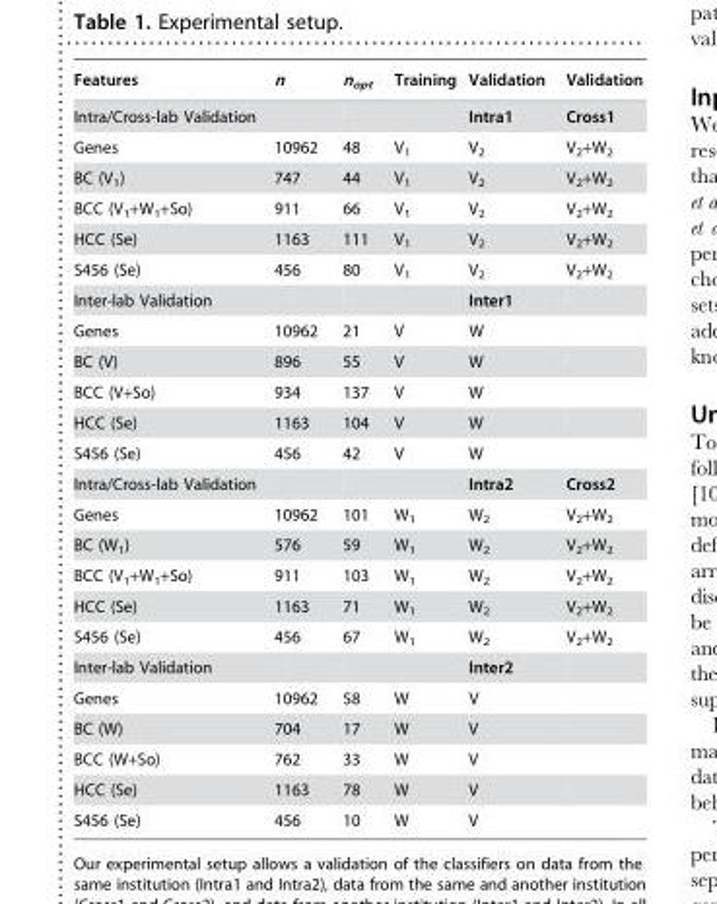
<table><thead><tr><td>Features</td><td>n</td><td>n<sub>opt</sub></td><td>Training</td><td>Validation</td><td>Validation</td></tr></thead><tbody><tr><td>Intra/Cross-lab Validation</td><td></td><td></td><td></td><td>Intra1</td><td>Cross1</td></tr><tr><td>Genes</td><td>10962</td><td>48</td><td>V<sub>1</sub></td><td>V<sub>2</sub></td><td>V<sub>2</sub>+W<sub>2</sub></td></tr><tr><td>BC (V<sub>1</sub>)</td><td>747</td><td>44</td><td>V<sub>1</sub></td><td>V<sub>2</sub></td><td>V<sub>2</sub>+W<sub>2</sub></td></tr><tr><td>BCC (V<sub>1</sub>+W<sub>1</sub>+So)</td><td>911</td><td>66</td><td>V<sub>1</sub></td><td>V<sub>2</sub></td><td>V<sub>2</sub>+W<sub>2</sub></td></tr><tr><td>HCC (Se)</td><td>1163</td><td>111</td><td>V<sub>1</sub></td><td>V<sub>2</sub></td><td>V<sub>2</sub>+W<sub>2</sub></td></tr><tr><td>S456 (Se)</td><td>456</td><td>80</td><td>V<sub>1</sub></td><td>V<sub>2</sub></td><td>V<sub>2</sub>+W<sub>2</sub></td></tr><tr><td>Inter-lab Validation</td><td></td><td></td><td></td><td>Inter1</td><td></td></tr><tr><td>Genes</td><td>10962</td><td>21</td><td>V</td><td>W</td><td></td></tr><tr><td>BC (V)</td><td>896</td><td>55</td><td>V</td><td>W</td><td></td></tr><tr><td>BCC (V+So)</td><td>934</td><td>137</td><td>V</td><td>W</td><td></td></tr><tr><td>HCC (Se)</td><td>1163</td><td>104</td><td>V</td><td>W</td><td></td></tr><tr><td>S456 (Se)</td><td>456</td><td>42</td><td>V</td><td>W</td><td></td></tr><tr><td>Intra/Cross-lab Validation</td><td></td><td></td><td></td><td>Intra2</td><td>Cross2</td></tr><tr><td>Genes</td><td>10962</td><td>101</td><td>W<sub>1</sub></td><td>W<sub>2</sub></td><td>V<sub>2</sub>+W<sub>2</sub></td></tr><tr><td>BC (W<sub>1</sub>)</td><td>576</td><td>59</td><td>W<sub>1</sub></td><td>W<sub>2</sub></td><td>V<sub>2</sub>+W<sub>2</sub></td></tr><tr><td>BCC (V<sub>1</sub>+W<sub>1</sub>+So)</td><td>911</td><td>103</td><td>W<sub>1</sub></td><td>W<sub>2</sub></td><td>V<sub>2</sub>+W<sub>2</sub></td></tr><tr><td>HCC (Se)</td><td>1163</td><td>71</td><td>W<sub>1</sub></td><td>W<sub>2</sub></td><td>V<sub>2</sub>+W<sub>2</sub></td></tr><tr><td>S456 (Se)</td><td>456</td><td>67</td><td>W<sub>1</sub></td><td>W<sub>2</sub></td><td>V<sub>2</sub>+W<sub>2</sub></td></tr><tr><td>Inter-lab Validation</td><td></td><td></td><td></td><td>Inter2</td><td></td></tr><tr><td>Genes</td><td>10962</td><td>58</td><td>W</td><td>V</td><td></td></tr><tr><td>BC (W)</td><td>704</td><td>17</td><td>W</td><td>V</td><td></td></tr><tr><td>BCC (W+So)</td><td>762</td><td>33</td><td>W</td><td>V</td><td></td></tr><tr><td>HCC (Se)</td><td>1163</td><td>78</td><td>W</td><td>V</td><td></td></tr><tr><td>S456 (Se)</td><td>456</td><td>10</td><td>W</td><td>V</td><td></td></tr></tbody></table>